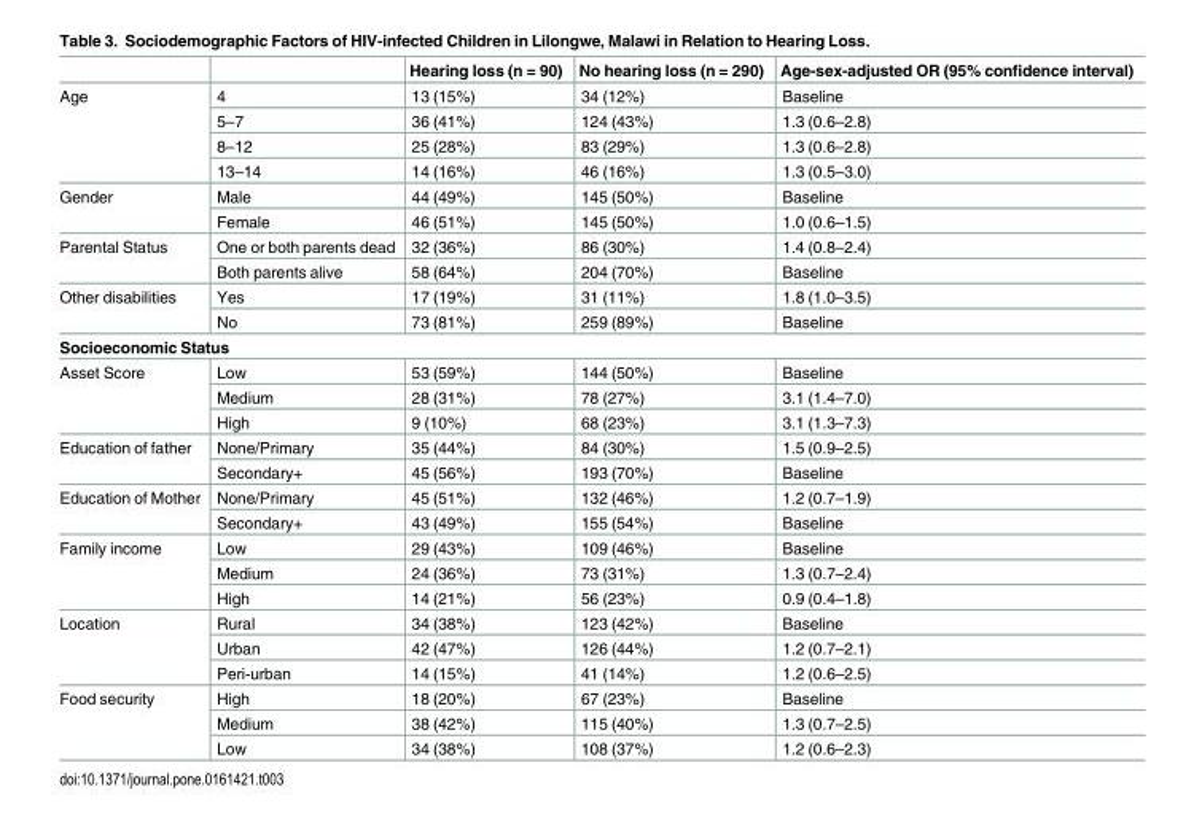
<table><thead><tr><td></td><td></td><td>Hearing loss (n = 90)</td><td>No hearing loss (n = 290)</td><td>Age-sex-adjusted OR (95% confidence interval)</td></tr></thead><tbody><tr><td rowspan="4">Age</td><td>4</td><td>13 (15%)</td><td>34 (12%)</td><td>Baseline</td></tr><tr><td>5–7</td><td>36 (41%)</td><td>124 (43%)</td><td>1.3 (0.6–2.8)</td></tr><tr><td>8–12</td><td>25 (28%)</td><td>83 (29%)</td><td>1.3 (0.6–2.8)</td></tr><tr><td>13–14</td><td>14 (16%)</td><td>46 (16%)</td><td>1.3 (0.5–3.0)</td></tr><tr><td rowspan="2">Gender</td><td>Male</td><td>44 (49%)</td><td>145 (50%)</td><td>Baseline</td></tr><tr><td>Female</td><td>46 (51%)</td><td>145 (50%)</td><td>1.0 (0.6–1.5)</td></tr><tr><td rowspan="2">Parental Status</td><td>One or both parents dead</td><td>32 (36%)</td><td>86 (30%)</td><td>1.4 (0.8–2.4)</td></tr><tr><td>Both parents alive</td><td>58 (64%)</td><td>204 (70%)</td><td>Baseline</td></tr><tr><td rowspan="2">Other disabilities</td><td>Yes</td><td>17 (19%)</td><td>31 (11%)</td><td>1.8 (1.0–3.5)</td></tr><tr><td>No</td><td>73 (81%)</td><td>259 (89%)</td><td>Baseline</td></tr><tr><td colspan="5">Socioeconomic Status</td></tr><tr><td rowspan="3">Asset Score</td><td>Low</td><td>53 (59%)</td><td>144 (50%)</td><td>Baseline</td></tr><tr><td>Medium</td><td>28 (31%)</td><td>78 (27%)</td><td>3.1 (1.4–7.0)</td></tr><tr><td>High</td><td>9 (10%)</td><td>68 (23%)</td><td>3.1 (1.3–7.3)</td></tr><tr><td rowspan="2">Education of father</td><td>None/Primary</td><td>35 (44%)</td><td>84 (30%)</td><td>1.5 (0.9–2.5)</td></tr><tr><td>Secondary+</td><td>45 (56%)</td><td>193 (70%)</td><td>Baseline</td></tr><tr><td rowspan="2">Education of Mother</td><td>None/Primary</td><td>45 (51%)</td><td>132 (46%)</td><td>1.2 (0.7–1.9)</td></tr><tr><td>Secondary+</td><td>43 (49%)</td><td>155 (54%)</td><td>Baseline</td></tr><tr><td rowspan="3">Family income</td><td>Low</td><td>29 (43%)</td><td>109 (46%)</td><td>Baseline</td></tr><tr><td>Medium</td><td>24 (36%)</td><td>73 (31%)</td><td>1.3 (0.7–2.4)</td></tr><tr><td>High</td><td>14 (21%)</td><td>56 (23%)</td><td>0.9 (0.4–1.8)</td></tr><tr><td rowspan="3">Location</td><td>Rural</td><td>34 (38%)</td><td>123 (42%)</td><td>Baseline</td></tr><tr><td>Urban</td><td>42 (47%)</td><td>126 (44%)</td><td>1.2 (0.7–2.1)</td></tr><tr><td>Peri-urban</td><td>14 (15%)</td><td>41 (14%)</td><td>1.2 (0.6–2.5)</td></tr><tr><td rowspan="3">Food security</td><td>High</td><td>18 (20%)</td><td>67 (23%)</td><td>Baseline</td></tr><tr><td>Medium</td><td>38 (42%)</td><td>115 (40%)</td><td>1.3 (0.7–2.5)</td></tr><tr><td>Low</td><td>34 (38%)</td><td>108 (37%)</td><td>1.2 (0.6–2.3)</td></tr></tbody></table>